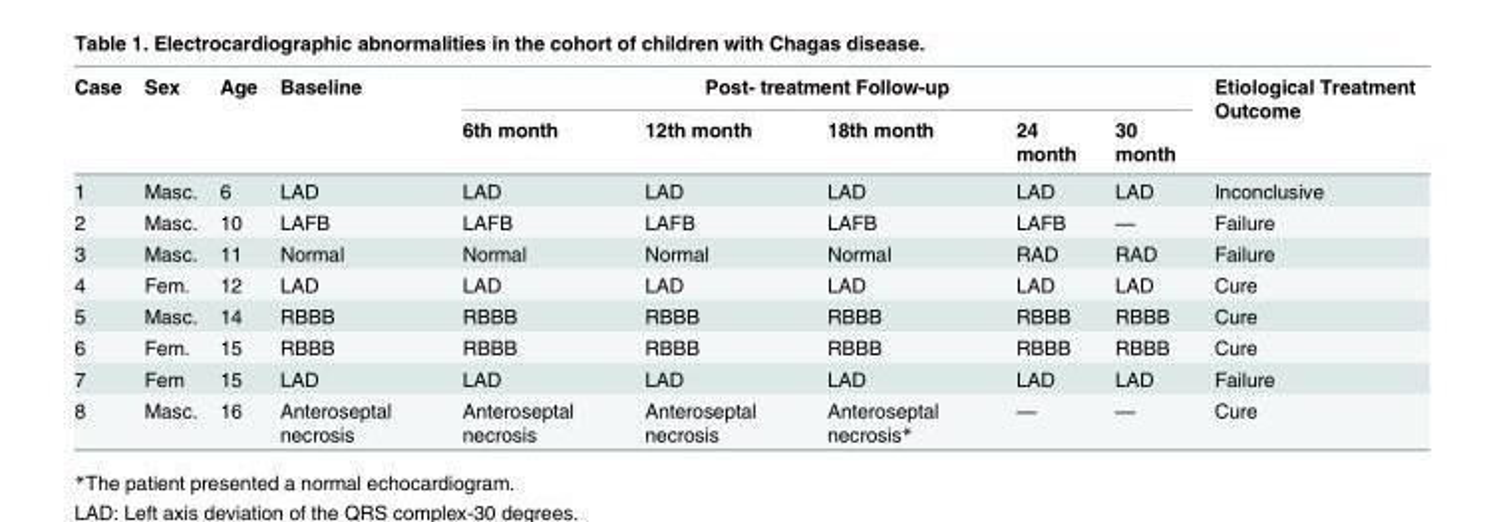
<table><thead><tr><td rowspan="2">Case</td><td rowspan="2">Sex</td><td rowspan="2">Age</td><td rowspan="2">Baseline</td><td colspan="5">Post- treatment Follow-up</td><td rowspan="2">Etiological Treatment Outcome</td></tr><tr><td>6th month</td><td>12th month</td><td>18th month</td><td>24 month</td><td>30 month</td></tr></thead><tbody><tr><td>1</td><td>Masc.</td><td>6</td><td>LAD</td><td>LAD</td><td>LAD</td><td>LAD</td><td>LAD</td><td>LAD</td><td>Inconclusive</td></tr><tr><td>2</td><td>Masc.</td><td>10</td><td>LAFB</td><td>LAFB</td><td>LAFB</td><td>LAFB</td><td>LAFB</td><td>—</td><td>Failure</td></tr><tr><td>3</td><td>Masc.</td><td>11</td><td>Normal</td><td>Normal</td><td>Normal</td><td>Normal</td><td>RAD</td><td>RAD</td><td>Failure</td></tr><tr><td>4</td><td>Fem.</td><td>12</td><td>LAD</td><td>LAD</td><td>LAD</td><td>LAD</td><td>LAD</td><td>LAD</td><td>Cure</td></tr><tr><td>5</td><td>Masc.</td><td>14</td><td>RBBB</td><td>RBBB</td><td>RBBB</td><td>RBBB</td><td>RBBB</td><td>RBBB</td><td>Cure</td></tr><tr><td>6</td><td>Fem.</td><td>15</td><td>RBBB</td><td>RBBB</td><td>RBBB</td><td>RBBB</td><td>RBBB</td><td>RBBB</td><td>Cure</td></tr><tr><td>7</td><td>Fem</td><td>15</td><td>LAD</td><td>LAD</td><td>LAD</td><td>LAD</td><td>LAD</td><td>LAD</td><td>Failure</td></tr><tr><td>8</td><td>Masc.</td><td>16</td><td>Anteroseptal necrosis</td><td>Anteroseptal necrosis</td><td>Anteroseptal necrosis</td><td>Anteroseptal necrosis*</td><td>—</td><td>—</td><td>Cure</td></tr></tbody></table>